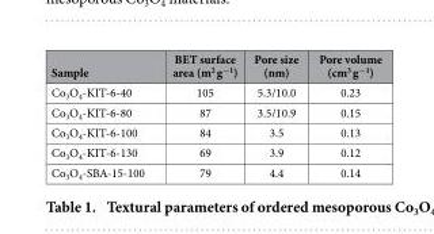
<table><thead><tr><td>Sample</td><td>BET surface area (m<sup>2</sup> g<sup>−1</sup>)</td><td>Pore size (nm)</td><td>Pore volume (cm<sup>3</sup> g<sup>−1</sup>)</td></tr></thead><tbody><tr><td>Co<sub>3</sub>O<sub>4</sub>-KIT-6-40</td><td>105</td><td>5.3/10.0</td><td>0.23</td></tr><tr><td>Co<sub>3</sub>O<sub>4</sub>-KIT-6-80</td><td>87</td><td>3.5/10.9</td><td>0.15</td></tr><tr><td>Co<sub>3</sub>O<sub>4</sub>-KIT-6-100</td><td>84</td><td>3.5</td><td>0.13</td></tr><tr><td>Co<sub>3</sub>O<sub>4</sub>-KIT-6-130</td><td>69</td><td>3.9</td><td>0.12</td></tr><tr><td>Co<sub>3</sub>O<sub>4</sub>-SBA-15-100</td><td>79</td><td>4.4</td><td>0.14</td></tr></tbody></table>